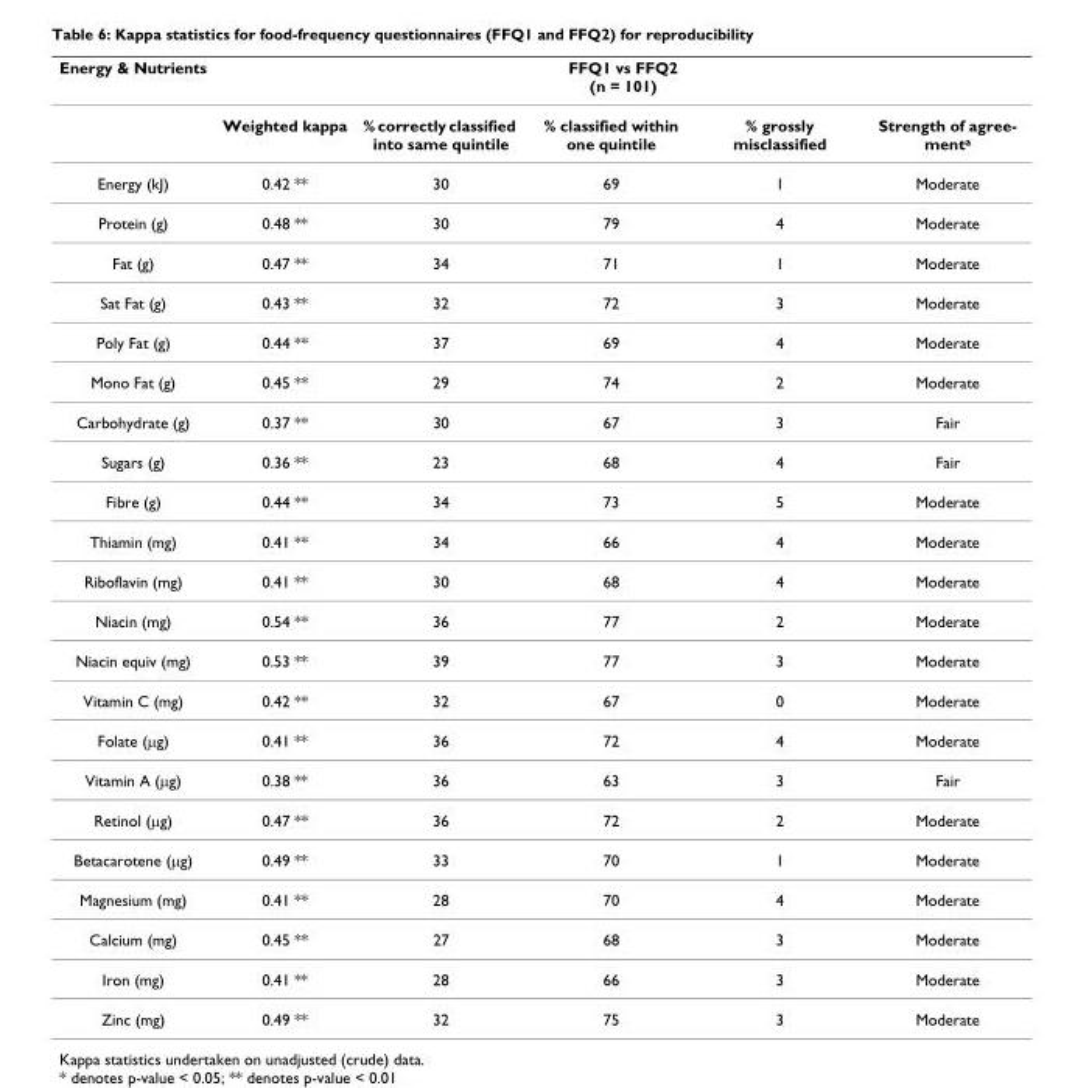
<table><thead><tr><td rowspan="2">Energy &amp; Nutrients</td><td colspan="5">FFQ1 vs FFQ2 (n = 101)</td></tr><tr><td>Weighted kappa</td><td>% correctly classified into same quintile</td><td>% classified within one quintile</td><td>% grossly misclassified</td><td>Strength of agree- menta</td></tr></thead><tbody><tr><td>Energy (kJ)</td><td>0.42 **</td><td>30</td><td>69</td><td>1</td><td>Moderate</td></tr><tr><td>Protein (g)</td><td>0.48 **</td><td>30</td><td>79</td><td>4</td><td>Moderate</td></tr><tr><td>Fat (g)</td><td>0.47 **</td><td>34</td><td>71</td><td>1</td><td>Moderate</td></tr><tr><td>Sat Fat (g)</td><td>0.43 **</td><td>32</td><td>72</td><td>3</td><td>Moderate</td></tr><tr><td>Poly Fat (g)</td><td>0.44 **</td><td>37</td><td>69</td><td>4</td><td>Moderate</td></tr><tr><td>Mono Fat (g)</td><td>0.45 **</td><td>29</td><td>74</td><td>2</td><td>Moderate</td></tr><tr><td>Carbohydrate (g)</td><td>0.37 **</td><td>30</td><td>67</td><td>3</td><td>Fair</td></tr><tr><td>Sugars (g)</td><td>0.36 **</td><td>23</td><td>68</td><td>4</td><td>Fair</td></tr><tr><td>Fibre (g)</td><td>0.44 **</td><td>34</td><td>73</td><td>5</td><td>Moderate</td></tr><tr><td>Thiamin (mg)</td><td>0.41 **</td><td>34</td><td>66</td><td>4</td><td>Moderate</td></tr><tr><td>Riboflavin (mg)</td><td>0.41 **</td><td>30</td><td>68</td><td>4</td><td>Moderate</td></tr><tr><td>Niacin (mg)</td><td>0.54 **</td><td>36</td><td>77</td><td>2</td><td>Moderate</td></tr><tr><td>Niacin equiv (mg)</td><td>0.53 **</td><td>39</td><td>77</td><td>3</td><td>Moderate</td></tr><tr><td>Vitamin C (mg)</td><td>0.42 **</td><td>32</td><td>67</td><td>0</td><td>Moderate</td></tr><tr><td>Folate (μg)</td><td>0.41 **</td><td>36</td><td>72</td><td>4</td><td>Moderate</td></tr><tr><td>Vitamin A (μg)</td><td>0.38 **</td><td>36</td><td>63</td><td>3</td><td>Fair</td></tr><tr><td>Retinol (μg)</td><td>0.47 **</td><td>36</td><td>72</td><td>2</td><td>Moderate</td></tr><tr><td>Betacarotene (μg)</td><td>0.49 **</td><td>33</td><td>70</td><td>1</td><td>Moderate</td></tr><tr><td>Magnesium (mg)</td><td>0.41 **</td><td>28</td><td>70</td><td>4</td><td>Moderate</td></tr><tr><td>Calcium (mg)</td><td>0.45 **</td><td>27</td><td>68</td><td>3</td><td>Moderate</td></tr><tr><td>Iron (mg)</td><td>0.41 **</td><td>28</td><td>66</td><td>3</td><td>Moderate</td></tr><tr><td>Zinc (mg)</td><td>0.49 **</td><td>32</td><td>75</td><td>3</td><td>Moderate</td></tr></tbody></table>